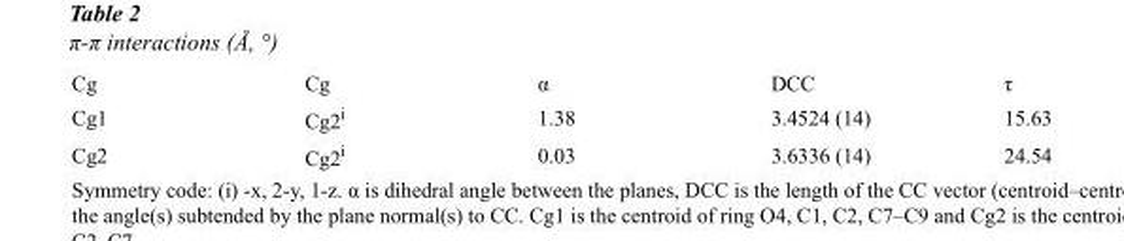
<table><tbody><tr><td>Cg</td><td>Cg</td><td>α</td><td>DCC</td><td>τ</td></tr><tr><td>Cg1</td><td>Cg2<sup>i</sup></td><td>1.38</td><td>3.4524 (14)</td><td>15.63</td></tr><tr><td>Cg2</td><td>Cg2<sup>i</sup></td><td>0.03</td><td>3.6336 (14)</td><td>24.54</td></tr></tbody></table>